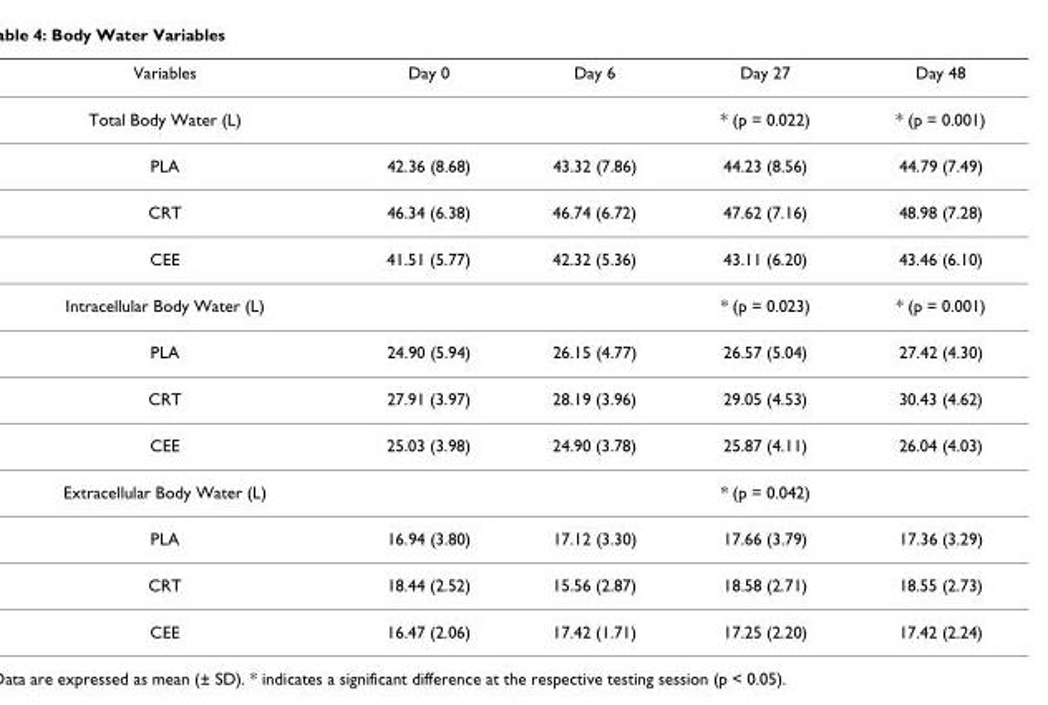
<table><thead><tr><td>Variables</td><td>Day 0</td><td>Day 6</td><td>Day 27</td><td>Day 48</td></tr></thead><tbody><tr><td>Total Body Water (L)</td><td></td><td></td><td>* (p = 0.022)</td><td>* (p = 0.001)</td></tr><tr><td>PLA</td><td>42.36 (8.68)</td><td>43.32 (7.86)</td><td>44.23 (8.56)</td><td>44.79 (7.49)</td></tr><tr><td>CRT</td><td>46.34 (6.38)</td><td>46.74 (6.72)</td><td>47.62 (7.16)</td><td>48.98 (7.28)</td></tr><tr><td>CEE</td><td>41.51 (5.77)</td><td>42.32 (5.36)</td><td>43.11 (6.20)</td><td>43.46 (6.10)</td></tr><tr><td>Intracellular Body Water (L)</td><td></td><td></td><td>* (p = 0.023)</td><td>* (p = 0.001)</td></tr><tr><td>PLA</td><td>24.90 (5.94)</td><td>26.15 (4.77)</td><td>26.57 (5.04)</td><td>27.42 (4.30)</td></tr><tr><td>CRT</td><td>27.91 (3.97)</td><td>28.19 (3.96)</td><td>29.05 (4.53)</td><td>30.43 (4.62)</td></tr><tr><td>CEE</td><td>25.03 (3.98)</td><td>24.90 (3.78)</td><td>25.87 (4.11)</td><td>26.04 (4.03)</td></tr><tr><td>Extracellular Body Water (L)</td><td></td><td></td><td>* (p = 0.042)</td><td></td></tr><tr><td>PLA</td><td>16.94 (3.80)</td><td>17.12 (3.30)</td><td>17.66 (3.79)</td><td>17.36 (3.29)</td></tr><tr><td>CRT</td><td>18.44 (2.52)</td><td>15.56 (2.87)</td><td>18.58 (2.71)</td><td>18.55 (2.73)</td></tr><tr><td>CEE</td><td>16.47 (2.06)</td><td>17.42 (1.71)</td><td>17.25 (2.20)</td><td>17.42 (2.24)</td></tr></tbody></table>